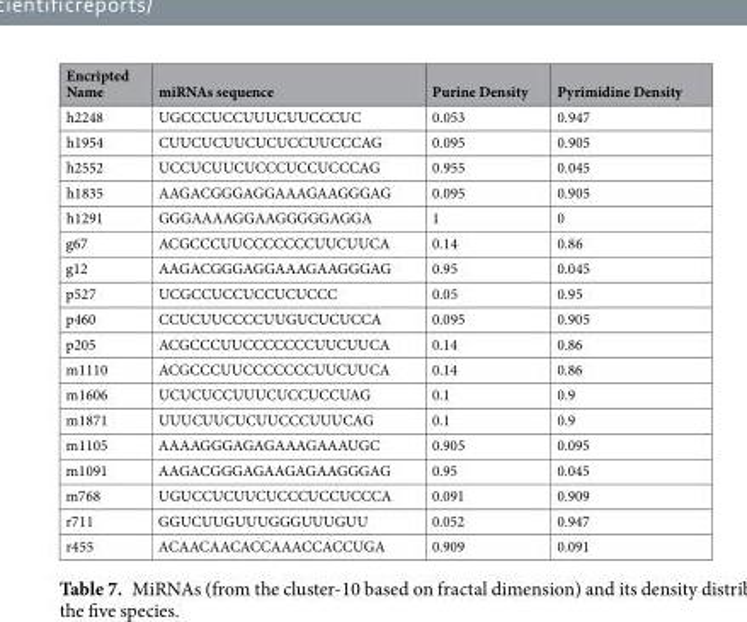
<table><thead><tr><td>Encripted Name</td><td>miRNAs sequence</td><td>Purine Density</td><td>Pyrimidine Density</td></tr></thead><tbody><tr><td>h2248</td><td>UGCCCUCCUUUCUUCCCUC</td><td>0.053</td><td>0.947</td></tr><tr><td>h1954</td><td>CUUCUCUUCUCUCCUUCCCAG</td><td>0.095</td><td>0.905</td></tr><tr><td>h2552</td><td>UCCUCUUCUCCCUCCUCCCAG</td><td>0.955</td><td>0.045</td></tr><tr><td>h1835</td><td>AAGACGGGAGGAAAGAAGGGAG</td><td>0.095</td><td>0.905</td></tr><tr><td>h1291</td><td>GGGAAAAGGAAGGGGGAGGA</td><td>1</td><td>0</td></tr><tr><td>g67</td><td>ACGCCCUUCCCCCCCUUCUUCA</td><td>0.14</td><td>0.86</td></tr><tr><td>g12</td><td>AAGACGGGAGGAAAGAAGGGAG</td><td>0.95</td><td>0.045</td></tr><tr><td>p527</td><td>UCGCCUCCUCCUCUCCC</td><td>0.05</td><td>0.95</td></tr><tr><td>p460</td><td>CCUCUUCCCCUUGUCUCUCCA</td><td>0.095</td><td>0.905</td></tr><tr><td>p205</td><td>ACGCCCUUCCCCCCCUUCUUCA</td><td>0.14</td><td>0.86</td></tr><tr><td>m1110</td><td>ACGCCCUUCCCCCCCUUCUUCA</td><td>0.14</td><td>0.86</td></tr><tr><td>m1606</td><td>UCUCUCCUUUCUCCUCCUAG</td><td>0.1</td><td>0.9</td></tr><tr><td>m1871</td><td>UUUCUUCUCUUCCCUUUCAG</td><td>0.1</td><td>0.9</td></tr><tr><td>m1105</td><td>AAAAGGGAGAGAAAGAAAUGC</td><td>0.905</td><td>0.095</td></tr><tr><td>m1091</td><td>AAGACGGGAGAAGAGAAGGGAG</td><td>0.95</td><td>0.045</td></tr><tr><td>m768</td><td>UGUCCUCUUCUCCCUCCUCCCA</td><td>0.091</td><td>0.909</td></tr><tr><td>r711</td><td>GGUCUUGUUUGGGUUUGUU</td><td>0.052</td><td>0.947</td></tr><tr><td>r455</td><td>ACAACAACACCAAACCACCUGA</td><td>0.909</td><td>0.091</td></tr></tbody></table>